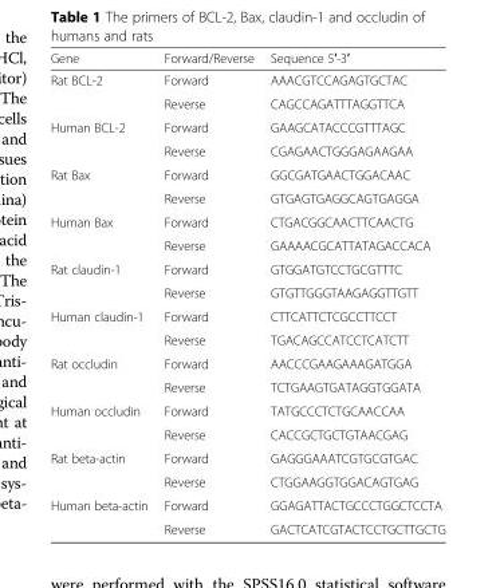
<table><thead><tr><td>Gene</td><td>Forward/Reverse</td><td>Sequence 5′-3′</td></tr></thead><tbody><tr><td rowspan="2">Rat BCL-2</td><td>Forward</td><td>AAACGTCCAGAGTGCTAC</td></tr><tr><td>Reverse</td><td>CAGCCAGATTTAGGTTCA</td></tr><tr><td rowspan="2">Human BCL-2</td><td>Forward</td><td>GAAGCATACCCGTTTAGC</td></tr><tr><td>Reverse</td><td>CGAGAACTGGGAGAAGAA</td></tr><tr><td rowspan="2">Rat Bax</td><td>Forward</td><td>GGCGATGAACTGGACAAC</td></tr><tr><td>Reverse</td><td>GTGAGTGAGGCAGTGAGGA</td></tr><tr><td rowspan="2">Human Bax</td><td>Forward</td><td>CTGACGGCAACTTCAACTG</td></tr><tr><td>Reverse</td><td>GAAAACGCATTATAGACCACA</td></tr><tr><td rowspan="2">Rat claudin-1</td><td>Forward</td><td>GTGGATGTCCTGCGTTTC</td></tr><tr><td>Reverse</td><td>GTGTTGGGTAAGAGGTTGTT</td></tr><tr><td rowspan="2">Human claudin-1</td><td>Forward</td><td>CTTCATTCTCGCCTTCCT</td></tr><tr><td>Reverse</td><td>TGACAGCCATCCTCATCTT</td></tr><tr><td rowspan="2">Rat occludin</td><td>Forward</td><td>AACCCGAAGAAAGATGGA</td></tr><tr><td>Reverse</td><td>TCTGAAGTGATAGGTGGATA</td></tr><tr><td rowspan="2">Human occludin</td><td>Forward</td><td>TATGCCCTCTGCAACCAA</td></tr><tr><td>Reverse</td><td>CACCGCTGCTGTAACGAG</td></tr><tr><td rowspan="2">Rat beta-actin</td><td>Forward</td><td>GAGGGAAATCGTGCGTGAC</td></tr><tr><td>Reverse</td><td>CTGGAAGGTGGACAGTGAG</td></tr><tr><td rowspan="2">Human beta-actin</td><td>Forward</td><td>GGAGATTACTGCCCTGGCTCCTA</td></tr><tr><td>Reverse</td><td>GACTCATCGTACTCCTGCTTGCTG</td></tr></tbody></table>